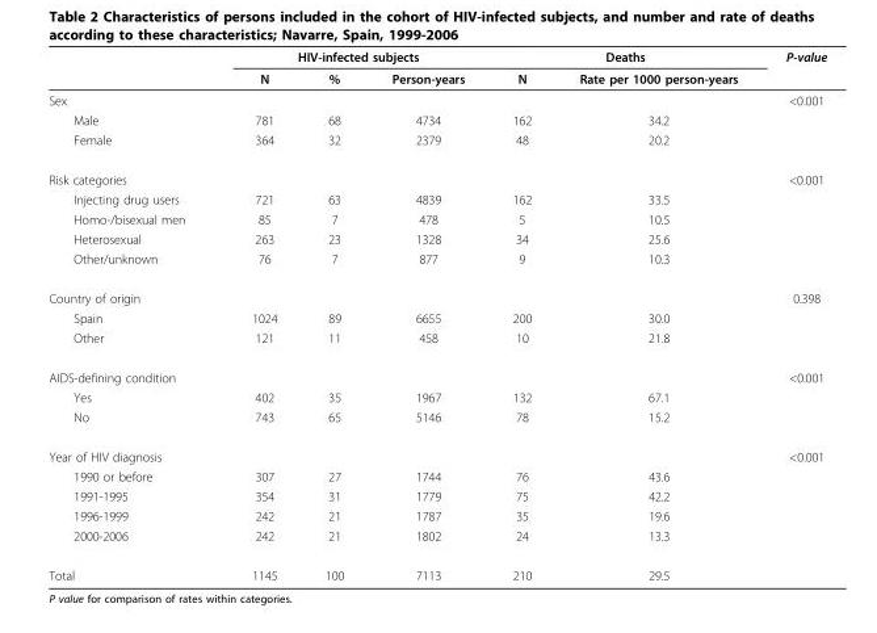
<table><thead><tr><td rowspan="2"></td><td colspan="3">HIV-infected subjects</td><td colspan="2">Deaths</td><td rowspan="2">P-value</td></tr><tr><td>N</td><td>%</td><td>Person-years</td><td>N</td><td>Rate per 1000 person-years</td></tr></thead><tbody><tr><td>Sex</td><td></td><td></td><td></td><td></td><td></td><td>&lt;0.001</td></tr><tr><td>Male</td><td>781</td><td>68</td><td>4734</td><td>162</td><td>34.2</td><td></td></tr><tr><td>Female</td><td>364</td><td>32</td><td>2379</td><td>48</td><td>20.2</td><td></td></tr><tr><td>Risk categories</td><td></td><td></td><td></td><td></td><td></td><td>&lt;0.001</td></tr><tr><td>Injecting drug users</td><td>721</td><td>63</td><td>4839</td><td>162</td><td>33.5</td><td></td></tr><tr><td>Homo-/bisexual men</td><td>85</td><td>7</td><td>478</td><td>5</td><td>10.5</td><td></td></tr><tr><td>Heterosexual</td><td>263</td><td>23</td><td>1328</td><td>34</td><td>25.6</td><td></td></tr><tr><td>Other/unknown</td><td>76</td><td>7</td><td>877</td><td>9</td><td>10.3</td><td></td></tr><tr><td>Country of origin</td><td></td><td></td><td></td><td></td><td></td><td>0.398</td></tr><tr><td>Spain</td><td>1024</td><td>89</td><td>6655</td><td>200</td><td>30.0</td><td></td></tr><tr><td>Other</td><td>121</td><td>11</td><td>458</td><td>10</td><td>21.8</td><td></td></tr><tr><td>AIDS-defining condition</td><td></td><td></td><td></td><td></td><td></td><td>&lt;0.001</td></tr><tr><td>Yes</td><td>402</td><td>35</td><td>1967</td><td>132</td><td>67.1</td><td></td></tr><tr><td>No</td><td>743</td><td>65</td><td>5146</td><td>78</td><td>15.2</td><td></td></tr><tr><td>Year of HIV diagnosis</td><td></td><td></td><td></td><td></td><td></td><td>&lt;0.001</td></tr><tr><td>1990 or before</td><td>307</td><td>27</td><td>1744</td><td>76</td><td>43.6</td><td></td></tr><tr><td>1991-1995</td><td>354</td><td>31</td><td>1779</td><td>75</td><td>42.2</td><td></td></tr><tr><td>1996-1999</td><td>242</td><td>21</td><td>1787</td><td>35</td><td>19.6</td><td></td></tr><tr><td>2000-2006</td><td>242</td><td>21</td><td>1802</td><td>24</td><td>13.3</td><td></td></tr><tr><td>Total</td><td>1145</td><td>100</td><td>7113</td><td>210</td><td>29.5</td><td></td></tr></tbody></table>